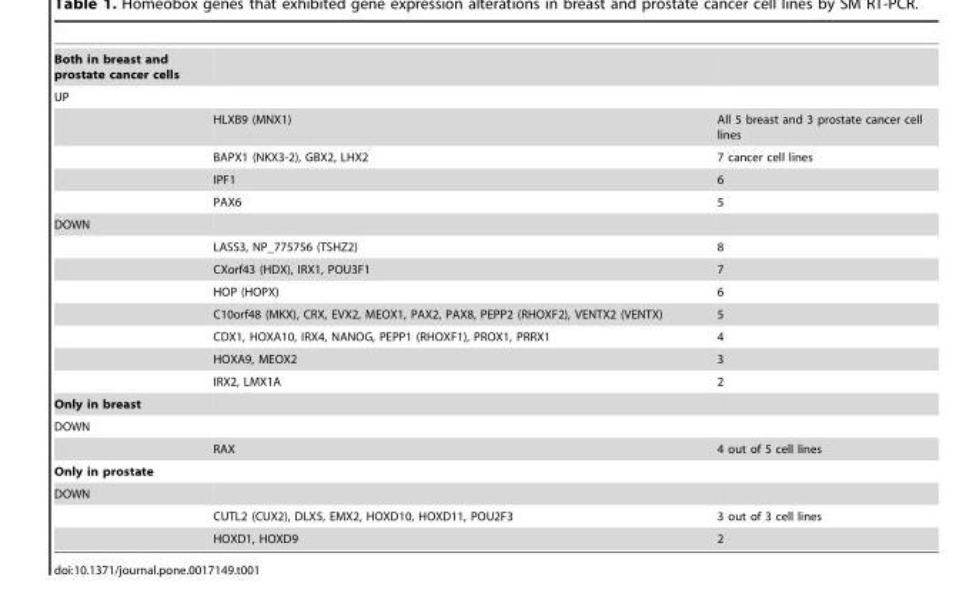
<table><tbody><tr><td colspan="3">Both in breast and prostate cancer cells</td></tr><tr><td colspan="3">UP</td></tr><tr><td></td><td>HLXB9 (MNX1)</td><td>All 5 breast and 3 prostate cancer cell lines</td></tr><tr><td></td><td>BAPX1 (NKX3-2), GBX2, LHX2</td><td>7 cancer cell lines</td></tr><tr><td></td><td>IPF1</td><td>6</td></tr><tr><td></td><td>PAX6</td><td>5</td></tr><tr><td colspan="3">DOWN</td></tr><tr><td></td><td>LASS3, NP_775756 (TSHZ2)</td><td>8</td></tr><tr><td></td><td>CXorf43 (HDX), IRX1, POU3F1</td><td>7</td></tr><tr><td></td><td>HOP (HOPX)</td><td>6</td></tr><tr><td></td><td>C10orf48 (MKX), CRX, EVX2, MEOX1, PAX2, PAX8, PEPP2 (RHOXF2), VENTX2 (VENTX)</td><td>5</td></tr><tr><td></td><td>CDX1, HOXA10, IRX4, NANOG, PEPP1 (RHOXF1), PROX1, PRRX1</td><td>4</td></tr><tr><td></td><td>HOXA9, MEOX2</td><td>3</td></tr><tr><td></td><td>IRX2, LMX1A</td><td>2</td></tr><tr><td colspan="3">Only in breast</td></tr><tr><td colspan="3">DOWN</td></tr><tr><td></td><td>RAX</td><td>4 out of 5 cell lines</td></tr><tr><td colspan="3">Only in prostate</td></tr><tr><td colspan="3">DOWN</td></tr><tr><td></td><td>CUTL2 (CUX2), DLX5, EMX2, HOXD10, HOXD11, POU2F3</td><td>3 out of 3 cell lines</td></tr><tr><td></td><td>HOXD1, HOXD9</td><td>2</td></tr></tbody></table>